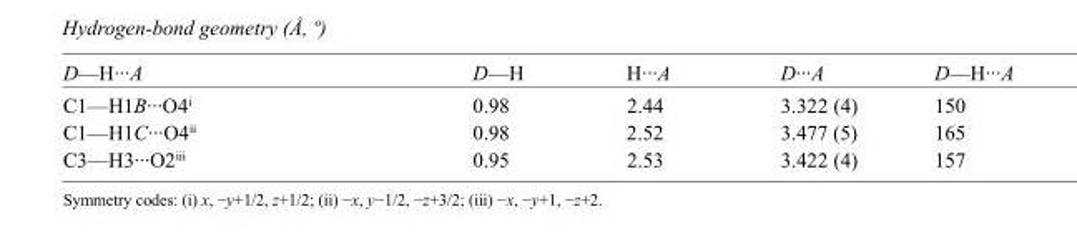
<table><tbody><tr><td>D—H···A</td><td>D—H</td><td>H···A</td><td>D···A</td><td>D—H···A</td></tr><tr><td>C1—H1B···O4<sup>i</sup></td><td>0.98</td><td>2.44</td><td>3.322 (4)</td><td>150</td></tr><tr><td>C1—H1C···O4<sup>ii</sup></td><td>0.98</td><td>2.52</td><td>3.477 (5)</td><td>165</td></tr><tr><td>C3—H3···O2<sup>iii</sup></td><td>0.95</td><td>2.53</td><td>3.422 (4)</td><td>157</td></tr></tbody></table>